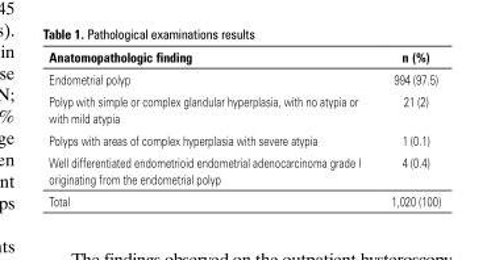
<table><thead><tr><td>Anatomopathologic finding</td><td>n (%)</td></tr></thead><tbody><tr><td>Endometrial polyp</td><td>994 (97.5)</td></tr><tr><td>Polyp with simple or complex glandular hyperplasia, with no atypia or with mild atypia</td><td>21 (2)</td></tr><tr><td>Polyps with areas of complex hyperplasia with severe atypia</td><td>1 (0.1)</td></tr><tr><td>Well differentiated endometrioid endometrial adenocarcinoma grade I originating from the endometrial polyp</td><td>4 (0.4)</td></tr><tr><td>Total</td><td>1,020 (100)</td></tr></tbody></table>